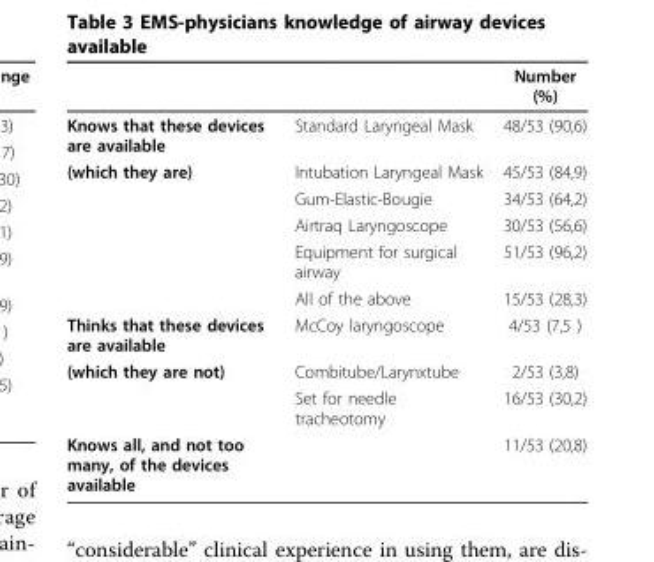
<table><thead><tr><td></td><td></td><td>Number (%)</td></tr></thead><tbody><tr><td>Knows that these devices are available</td><td>Standard Laryngeal Mask</td><td>48/53 (90,6)</td></tr><tr><td rowspan="5">(which they are)</td><td>Intubation Laryngeal Mask</td><td>45/53 (84,9)</td></tr><tr><td>Gum-Elastic-Bougie</td><td>34/53 (64,2)</td></tr><tr><td>Airtraq Laryngoscope</td><td>30/53 (56,6)</td></tr><tr><td>Equipment for surgical airway</td><td>51/53 (96,2)</td></tr><tr><td>All of the above</td><td>15/53 (28,3)</td></tr><tr><td>Thinks that these devices are available</td><td>McCoy laryngoscope</td><td>4/53 (7,5 )</td></tr><tr><td rowspan="2">(which they are not)</td><td>Combitube/Larynxtube</td><td>2/53 (3,8)</td></tr><tr><td>Set for needle tracheotomy</td><td>16/53 (30,2)</td></tr><tr><td>Knows all, and not too many, of the devices available</td><td></td><td>11/53 (20,8)</td></tr></tbody></table>